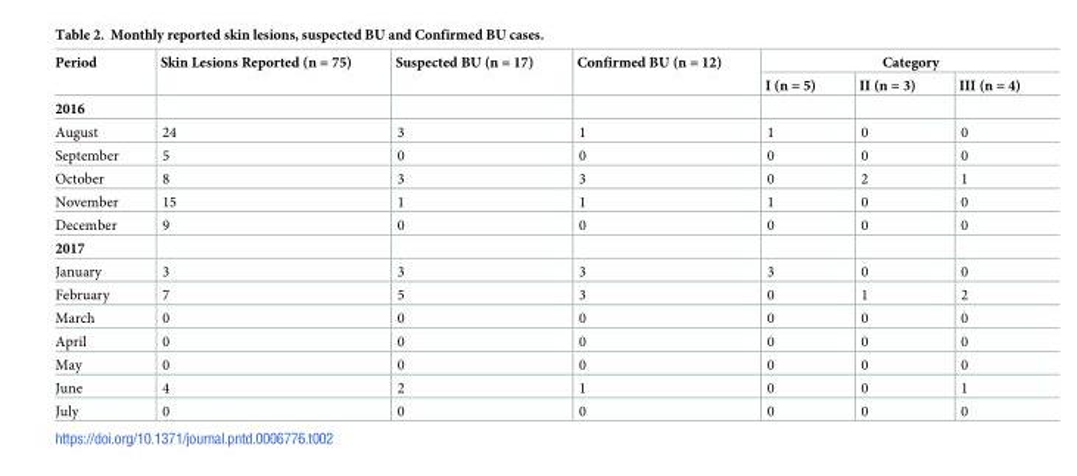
<table><thead><tr><td rowspan="2">Period</td><td rowspan="2">Skin Lesions Reported (n = 75)</td><td rowspan="2">Suspected BU (n = 17)</td><td rowspan="2">Confirmed BU (n = 12)</td><td colspan="3">Category</td></tr><tr><td>I (n = 5)</td><td>II (n = 3)</td><td>III (n = 4)</td></tr></thead><tbody><tr><td colspan="7">2016</td></tr><tr><td>August</td><td>24</td><td>3</td><td>1</td><td>1</td><td>0</td><td>0</td></tr><tr><td>September</td><td>5</td><td>0</td><td>0</td><td>0</td><td>0</td><td>0</td></tr><tr><td>October</td><td>8</td><td>3</td><td>3</td><td>0</td><td>2</td><td>1</td></tr><tr><td>November</td><td>15</td><td>1</td><td>1</td><td>1</td><td>0</td><td>0</td></tr><tr><td>December</td><td>9</td><td>0</td><td>0</td><td>0</td><td>0</td><td>0</td></tr><tr><td colspan="7">2017</td></tr><tr><td>January</td><td>3</td><td>3</td><td>3</td><td>3</td><td>0</td><td>0</td></tr><tr><td>February</td><td>7</td><td>5</td><td>3</td><td>0</td><td>1</td><td>2</td></tr><tr><td>March</td><td>0</td><td>0</td><td>0</td><td>0</td><td>0</td><td>0</td></tr><tr><td>April</td><td>0</td><td>0</td><td>0</td><td>0</td><td>0</td><td>0</td></tr><tr><td>May</td><td>0</td><td>0</td><td>0</td><td>0</td><td>0</td><td>0</td></tr><tr><td>June</td><td>4</td><td>2</td><td>1</td><td>0</td><td>0</td><td>1</td></tr><tr><td>July</td><td>0</td><td>0</td><td>0</td><td>0</td><td>0</td><td>0</td></tr></tbody></table>